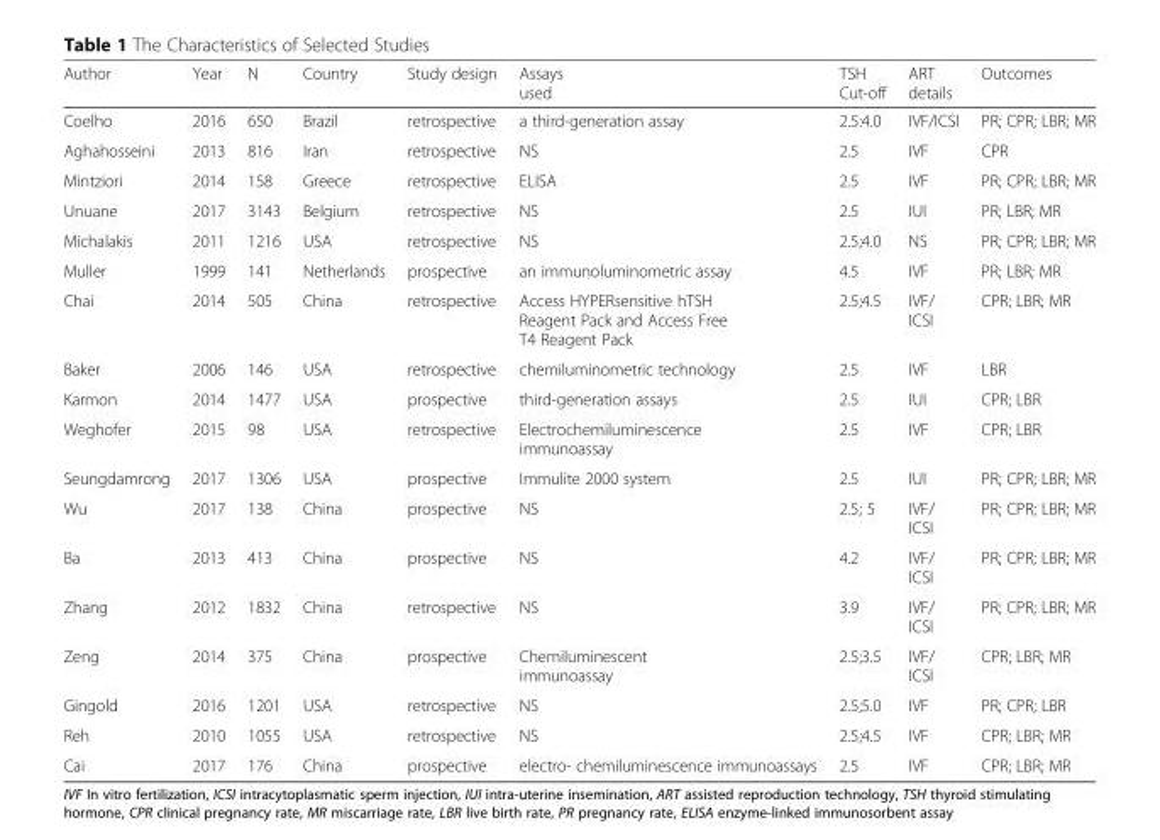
<table><thead><tr><td>Author</td><td>Year</td><td>N</td><td>Country</td><td>Study design</td><td>Assays used</td><td>TSH Cut-off</td><td>ART details</td><td>Outcomes</td></tr></thead><tbody><tr><td>Coelho</td><td>2016</td><td>650</td><td>Brazil</td><td>retrospective</td><td>a third-generation assay</td><td>2.5:4.0</td><td>IVF/ICSI</td><td>PR; CPR; LBR; MR</td></tr><tr><td>Aghahosseini</td><td>2013</td><td>816</td><td>Iran</td><td>retrospective</td><td>NS</td><td>2.5</td><td>IVF</td><td>CPR</td></tr><tr><td>Mintziori</td><td>2014</td><td>158</td><td>Greece</td><td>retrospective</td><td>ELISA</td><td>2.5</td><td>IVF</td><td>PR; CPR; LBR; MR</td></tr><tr><td>Unuane</td><td>2017</td><td>3143</td><td>Belgium</td><td>retrospective</td><td>NS</td><td>2.5</td><td>IUI</td><td>PR; LBR; MR</td></tr><tr><td>Michalakis</td><td>2011</td><td>1216</td><td>USA</td><td>retrospective</td><td>NS</td><td>2.5;4.0</td><td>NS</td><td>PR; CPR; LBR; MR</td></tr><tr><td>Muller</td><td>1999</td><td>141</td><td>Netherlands</td><td>prospective</td><td>an immunoluminometric assay</td><td>4.5</td><td>IVF</td><td>PR; LBR; MR</td></tr><tr><td>Chai</td><td>2014</td><td>505</td><td>China</td><td>retrospective</td><td>Access HYPERsensitive hTSH Reagent Pack and Access Free T4 Reagent Pack</td><td>2.5;4.5</td><td>IVF/ ICSI</td><td>CPR; LBR; MR</td></tr><tr><td>Baker</td><td>2006</td><td>146</td><td>USA</td><td>retrospective</td><td>chemiluminometric technology</td><td>2.5</td><td>IVF</td><td>LBR</td></tr><tr><td>Karmon</td><td>2014</td><td>1477</td><td>USA</td><td>prospective</td><td>third-generation assays</td><td>2.5</td><td>IUI</td><td>CPR; LBR</td></tr><tr><td>Weghofer</td><td>2015</td><td>98</td><td>USA</td><td>retrospective</td><td>Electrochemiluminescence immunoassay</td><td>2.5</td><td>IVF</td><td>CPR; LBR</td></tr><tr><td>Seungdamrong</td><td>2017</td><td>1306</td><td>USA</td><td>prospective</td><td>Immulite 2000 system</td><td>2.5</td><td>IUI</td><td>PR; CPR; LBR; MR</td></tr><tr><td>Wu</td><td>2017</td><td>138</td><td>China</td><td>prospective</td><td>NS</td><td>2.5; 5</td><td>IVF/ ICSI</td><td>PR; CPR; LBR; MR</td></tr><tr><td>Ba</td><td>2013</td><td>413</td><td>China</td><td>prospective</td><td>NS</td><td>4.2</td><td>IVF/ ICSI</td><td>PR; CPR; LBR; MR</td></tr><tr><td>Zhang</td><td>2012</td><td>1832</td><td>China</td><td>retrospective</td><td>NS</td><td>3.9</td><td>IVF/ ICSI</td><td>PR; CPR; LBR; MR</td></tr><tr><td>Zeng</td><td>2014</td><td>375</td><td>China</td><td>prospective</td><td>Chemiluminescent immunoassay</td><td>2.5;3.5</td><td>IVF/ ICSI</td><td>CPR; LBR; MR</td></tr><tr><td>Gingold</td><td>2016</td><td>1201</td><td>USA</td><td>retrospective</td><td>NS</td><td>2.5;5.0</td><td>IVF</td><td>PR; CPR; LBR</td></tr><tr><td>Reh</td><td>2010</td><td>1055</td><td>USA</td><td>retrospective</td><td>NS</td><td>2.5;4.5</td><td>IVF</td><td>CPR; LBR; MR</td></tr><tr><td>Cai</td><td>2017</td><td>176</td><td>China</td><td>prospective</td><td>electro- chemiluminescence immunoassays</td><td>2.5</td><td>IVF</td><td>CPR; LBR; MR</td></tr></tbody></table>